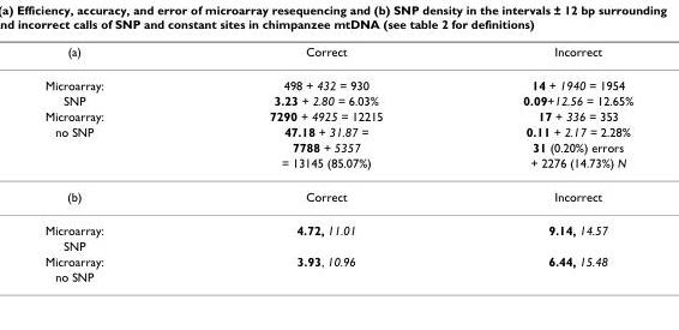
<table><thead><tr><td>(a)</td><td>Correct</td><td>Incorrect</td></tr></thead><tbody><tr><td>Microarray:</td><td>498 + 432 = 930</td><td>14 + 1940 = 1954</td></tr><tr><td>SNP</td><td>3.23 + 2.80 = 6.03%</td><td>0.09+12.56 = 12.65%</td></tr><tr><td>Microarray:</td><td>7290 + 4925 = 12215</td><td>17 + 336 = 353</td></tr><tr><td rowspan="3">no SNP</td><td>47.18 + 31.87 =</td><td>0.11 + 2.17 = 2.28%</td></tr><tr><td>7788 + 5357</td><td>31 (0.20%) errors</td></tr><tr><td>= 13145 (85.07%)</td><td>+ 2276 (14.73%) N</td></tr><tr><td>(b)</td><td>Correct</td><td>Incorrect</td></tr><tr><td>Microarray:</td><td>4.72, 11.01</td><td>9.14, 14.57</td></tr><tr><td colspan="3">SNP</td></tr><tr><td>Microarray:</td><td>3.93, 10.96</td><td>6.44, 15.48</td></tr><tr><td>no SNP</td><td></td><td></td></tr></tbody></table>